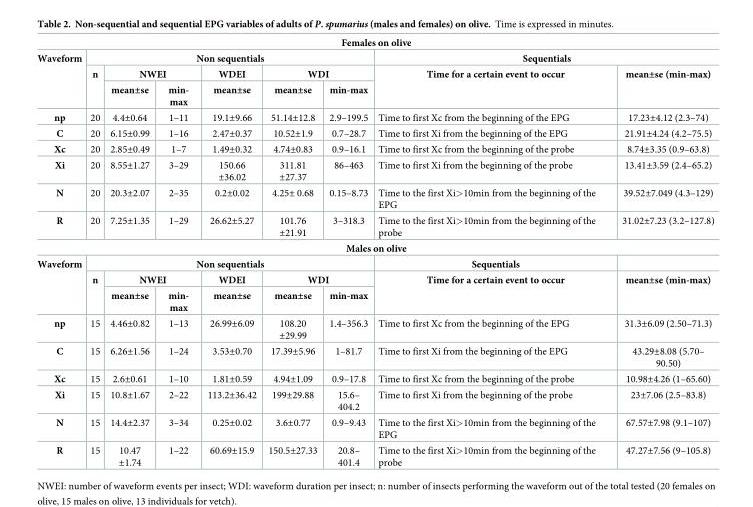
<table><tbody><tr><td colspan="9">Females on olive</td></tr><tr><td rowspan="3">Waveform</td><td colspan="6">Non sequentials</td><td colspan="2">Sequentials</td></tr><tr><td rowspan="2">n</td><td colspan="2">NWEI</td><td>WDEI</td><td colspan="2">WDI</td><td rowspan="2">Time for a certain event to occur</td><td rowspan="2">mean±se (min-max)</td></tr><tr><td>mean±se</td><td>min- max</td><td>mean±se</td><td>mean±se</td><td>min-max</td></tr><tr><td>np</td><td>20</td><td>4.4±0.64</td><td>1–11</td><td>19.1±9.66</td><td>51.14±12.8</td><td>2.9–199.5</td><td>Time to first Xc from the beginning of the EPG</td><td>17.23±4.12 (2.3–74)</td></tr><tr><td>C</td><td>20</td><td>6.15±0.99</td><td>1–16</td><td>2.47±0.37</td><td>10.52±1.9</td><td>0.7–28.7</td><td>Time to first Xi from the beginning of the EPG</td><td>21.91±4.24 (4.2–75.5)</td></tr><tr><td>Xc</td><td>20</td><td>2.85±0.49</td><td>1–7</td><td>1.49±0.32</td><td>4.74±0.83</td><td>0.9–16.1</td><td>Time to first Xc from the beginning of the probe</td><td>8.74±3.35 (0.9–63.8)</td></tr><tr><td>Xi</td><td>20</td><td>8.55±1.27</td><td>3–29</td><td>150.66 ±36.02</td><td>311.81 ±27.37</td><td>86–463</td><td>Time to first Xi from the beginning of the probe</td><td>13.41±3.59 (2.4–65.2)</td></tr><tr><td>N</td><td>20</td><td>20.3±2.07</td><td>2–35</td><td>0.2±0.02</td><td>4.25± 0.68</td><td>0.15–8.73</td><td>Time to the first Xi&gt;10min from the beginning of the EPG</td><td>39.52±7.049 (4.3–129)</td></tr><tr><td>R</td><td>20</td><td>7.25±1.35</td><td>1–29</td><td>26.62±5.27</td><td>101.76 ±21.91</td><td>3–318.3</td><td>Time to the first Xi&gt;10min from the beginning of the probe</td><td>31.02±7.23 (3.2–127.8)</td></tr><tr><td colspan="9">Males on olive</td></tr><tr><td rowspan="3">Waveform</td><td colspan="6">Non sequentials</td><td>Sequentials</td><td></td></tr><tr><td rowspan="2">n</td><td colspan="2">NWEI</td><td>WDEI</td><td colspan="2">WDI</td><td rowspan="2">Time for a certain event to occur</td><td rowspan="2">mean±se (min-max)</td></tr><tr><td>mean±se</td><td>min- max</td><td>mean±se</td><td>mean±se</td><td>min-max</td></tr><tr><td>np</td><td>15</td><td>4.46±0.82</td><td>1–13</td><td>26.99±6.09</td><td>108.20 ±29.99</td><td>1.4–356.3</td><td>Time to first Xc from the beginning of the EPG</td><td>31.3±6.09 (2.50–71.3)</td></tr><tr><td>C</td><td>15</td><td>6.26±1.56</td><td>1–24</td><td>3.53±0.70</td><td>17.39±5.96</td><td>1–81.7</td><td>Time to first Xi from the beginning of the EPG</td><td>43.29±8.08 (5.70– 90.50)</td></tr><tr><td>Xc</td><td>15</td><td>2.6±0.61</td><td>1–10</td><td>1.81±0.59</td><td>4.94±1.09</td><td>0.9–17.8</td><td>Time to first Xc from the beginning of the probe</td><td>10.98±4.26 (1–65.60)</td></tr><tr><td>Xi</td><td>15</td><td>10.8±1.67</td><td>2–22</td><td>113.2±36.42</td><td>199±29.88</td><td>15.6– 404.2</td><td>Time to first Xi from the beginning of the probe</td><td>23±7.06 (2.5–83.8)</td></tr><tr><td>N</td><td>15</td><td>14.4±2.37</td><td>3–34</td><td>0.25±0.02</td><td>3.6±0.77</td><td>0.9–9.43</td><td>Time to the first Xi&gt;10min from the beginning of the EPG</td><td>67.57±7.98 (9.1–107)</td></tr><tr><td>R</td><td>15</td><td>10.47 ±1.74</td><td>1–22</td><td>60.69±15.9</td><td>150.5±27.33</td><td>20.8– 401.4</td><td>Time to the first Xi&gt;10min from the beginning of the probe</td><td>47.27±7.56 (9–105.8)</td></tr></tbody></table>